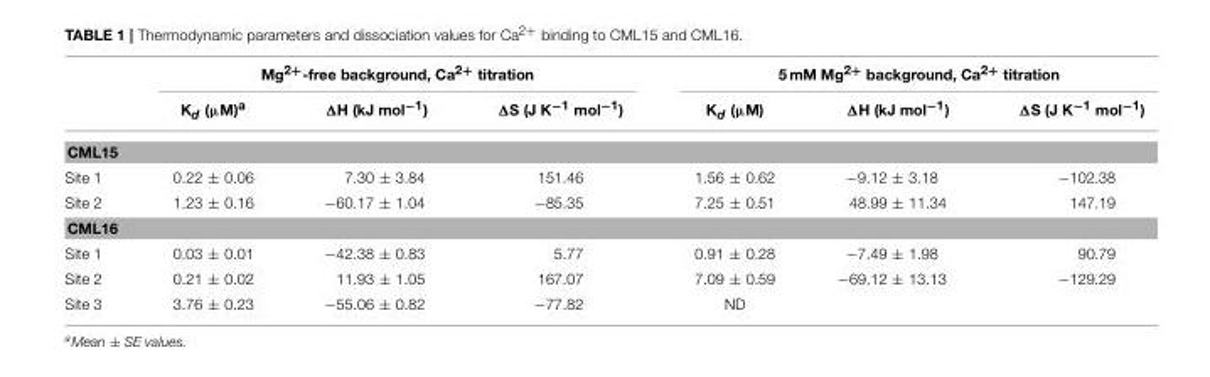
<table><thead><tr><td rowspan="2"></td><td colspan="3">Mg<sup>2+</sup>-free background, Ca<sup>2+</sup> titration</td><td colspan="3">5 mM Mg<sup>2+</sup> background, Ca<sup>2+</sup> titration</td></tr><tr><td>Kd (µM)a</td><td>ΔH (kJ mol<sup>−1</sup>)</td><td>ΔS (J K<sup>−1</sup> mol<sup>−1</sup>)</td><td>Kd (µM)</td><td>ΔH (kJ mol<sup>−1</sup>)</td><td>ΔS (J K<sup>−1</sup> mol<sup>−1</sup>)</td></tr></thead><tbody><tr><td colspan="7">CML15</td></tr><tr><td>Site 1</td><td>0.22 ± 0.06</td><td>7.30 ± 3.84</td><td>151.46</td><td>1.56 ± 0.62</td><td>−9.12 ± 3.18</td><td>−102.38</td></tr><tr><td>Site 2</td><td>1.23 ± 0.16</td><td>−60.17 ± 1.04</td><td>−85.35</td><td>7.25 ± 0.51</td><td>48.99 ± 11.34</td><td>147.19</td></tr><tr><td colspan="7">CML16</td></tr><tr><td>Site 1</td><td>0.03 ± 0.01</td><td>−42.38 ± 0.83</td><td>5.77</td><td>0.91 ± 0.28</td><td>−7.49 ± 1.98</td><td>90.79</td></tr><tr><td>Site 2</td><td>0.21 ± 0.02</td><td>11.93 ± 1.05</td><td>167.07</td><td>7.09 ± 0.59</td><td>−69.12 ± 13.13</td><td>−129.29</td></tr><tr><td>Site 3</td><td>3.76 ± 0.23</td><td>−55.06 ± 0.82</td><td>−77.82</td><td>ND</td><td></td><td></td></tr></tbody></table>